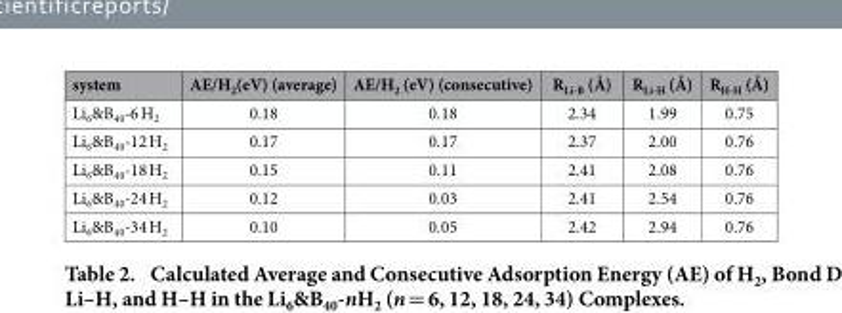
<table><thead><tr><td>system</td><td>AE/H<sub>2</sub>(eV) (average)</td><td>AE/H<sub>2</sub> (eV) (consecutive)</td><td>R<sub>Li-B</sub> (Å)</td><td>R<sub>Li-H</sub> (Å)</td><td>R<sub>H-H</sub> (Å)</td></tr></thead><tbody><tr><td>Li<sub>6</sub>&amp;B<sub>40</sub>-6 H<sub>2</sub></td><td>0.18</td><td>0.18</td><td>2.34</td><td>1.99</td><td>0.75</td></tr><tr><td>Li<sub>6</sub>&amp;B<sub>40</sub>-12 H<sub>2</sub></td><td>0.17</td><td>0.17</td><td>2.37</td><td>2.00</td><td>0.76</td></tr><tr><td>Li<sub>6</sub>&amp;B<sub>40</sub>-18 H<sub>2</sub></td><td>0.15</td><td>0.11</td><td>2.41</td><td>2.08</td><td>0.76</td></tr><tr><td>Li<sub>6</sub>&amp;B<sub>40</sub>-24 H<sub>2</sub></td><td>0.12</td><td>0.03</td><td>2.41</td><td>2.54</td><td>0.76</td></tr><tr><td>Li<sub>6</sub>&amp;B<sub>40</sub>-34 H<sub>2</sub></td><td>0.10</td><td>0.05</td><td>2.42</td><td>2.94</td><td>0.76</td></tr></tbody></table>